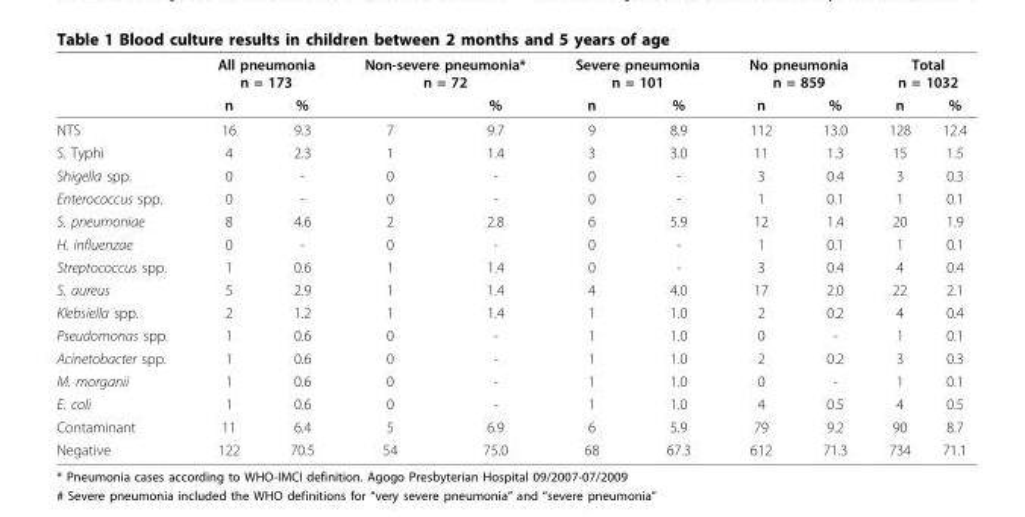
<table><thead><tr><td rowspan="2"></td><td colspan="2">All pneumonia n = 173</td><td colspan="2">Non-severe pneumonia* n = 72</td><td colspan="2">Severe pneumonia n = 101</td><td colspan="2">No pneumonia n = 859</td><td colspan="2">Total n = 1032</td></tr><tr><td>n</td><td>%</td><td></td><td>%</td><td>n</td><td>%</td><td>n</td><td>%</td><td>n</td><td>%</td></tr></thead><tbody><tr><td>NTS</td><td>16</td><td>9.3</td><td>7</td><td>9.7</td><td>9</td><td>8.9</td><td>112</td><td>13.0</td><td>128</td><td>12.4</td></tr><tr><td>S. Typhi</td><td>4</td><td>2.3</td><td>1</td><td>1.4</td><td>3</td><td>3.0</td><td>11</td><td>1.3</td><td>15</td><td>1.5</td></tr><tr><td>Shigella spp.</td><td>0</td><td>-</td><td>0</td><td>-</td><td>0</td><td>-</td><td>3</td><td>0.4</td><td>3</td><td>0.3</td></tr><tr><td>Enterococcus spp.</td><td>0</td><td>-</td><td>0</td><td>-</td><td>0</td><td>-</td><td>1</td><td>0.1</td><td>1</td><td>0.1</td></tr><tr><td>S. pneumoniae</td><td>8</td><td>4.6</td><td>2</td><td>2.8</td><td>6</td><td>5.9</td><td>12</td><td>1.4</td><td>20</td><td>1.9</td></tr><tr><td>H. influenzae</td><td>0</td><td>-</td><td>0</td><td>-</td><td>0</td><td>-</td><td>1</td><td>0.1</td><td>1</td><td>0.1</td></tr><tr><td>Streptococcus spp.</td><td>1</td><td>0.6</td><td>1</td><td>1.4</td><td>0</td><td>-</td><td>3</td><td>0.4</td><td>4</td><td>0.4</td></tr><tr><td>S. aureus</td><td>5</td><td>2.9</td><td>1</td><td>1.4</td><td>4</td><td>4.0</td><td>17</td><td>2.0</td><td>22</td><td>2.1</td></tr><tr><td>Klebsiella spp.</td><td>2</td><td>1.2</td><td>1</td><td>1.4</td><td>1</td><td>1.0</td><td>2</td><td>0.2</td><td>4</td><td>0.4</td></tr><tr><td>Pseudomonas spp.</td><td>1</td><td>0.6</td><td>0</td><td>-</td><td>1</td><td>1.0</td><td>0</td><td>-</td><td>1</td><td>0.1</td></tr><tr><td>Acinetobacter spp.</td><td>1</td><td>0.6</td><td>0</td><td>-</td><td>1</td><td>1.0</td><td>2</td><td>0.2</td><td>3</td><td>0.3</td></tr><tr><td>M. morganii</td><td>1</td><td>0.6</td><td>0</td><td>-</td><td>1</td><td>1.0</td><td>0</td><td>-</td><td>1</td><td>0.1</td></tr><tr><td>E. coli</td><td>1</td><td>0.6</td><td>0</td><td>-</td><td>1</td><td>1.0</td><td>4</td><td>0.5</td><td>4</td><td>0.5</td></tr><tr><td>Contaminant</td><td>11</td><td>6.4</td><td>5</td><td>6.9</td><td>6</td><td>5.9</td><td>79</td><td>9.2</td><td>90</td><td>8.7</td></tr><tr><td>Negative</td><td>122</td><td>70.5</td><td>54</td><td>75.0</td><td>68</td><td>67.3</td><td>612</td><td>71.3</td><td>734</td><td>71.1</td></tr></tbody></table>